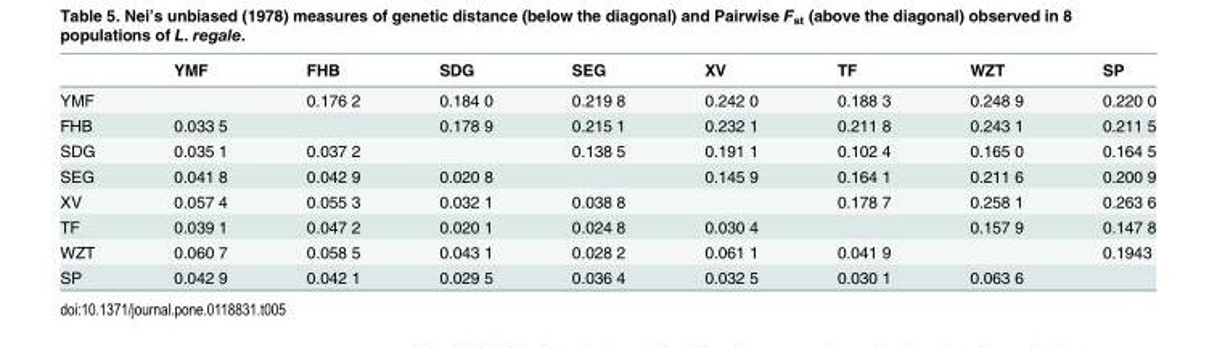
<table><thead><tr><td></td><td>YMF</td><td>FHB</td><td>SDG</td><td>SEG</td><td>XV</td><td>TF</td><td>WZT</td><td>SP</td></tr></thead><tbody><tr><td>YMF</td><td></td><td>0.176 2</td><td>0.184 0</td><td>0.219 8</td><td>0.242 0</td><td>0.188 3</td><td>0.248 9</td><td>0.220 0</td></tr><tr><td>FHB</td><td>0.033 5</td><td></td><td>0.178 9</td><td>0.215 1</td><td>0.232 1</td><td>0.211 8</td><td>0.243 1</td><td>0.211 5</td></tr><tr><td>SDG</td><td>0.035 1</td><td>0.037 2</td><td></td><td>0.138 5</td><td>0.191 1</td><td>0.102 4</td><td>0.165 0</td><td>0.164 5</td></tr><tr><td>SEG</td><td>0.041 8</td><td>0.042 9</td><td>0.020 8</td><td></td><td>0.145 9</td><td>0.164 1</td><td>0.211 6</td><td>0.200 9</td></tr><tr><td>XV</td><td>0.057 4</td><td>0.055 3</td><td>0.032 1</td><td>0.038 8</td><td></td><td>0.178 7</td><td>0.258 1</td><td>0.263 6</td></tr><tr><td>TF</td><td>0.039 1</td><td>0.047 2</td><td>0.020 1</td><td>0.024 8</td><td>0.030 4</td><td></td><td>0.157 9</td><td>0.147 8</td></tr><tr><td>WZT</td><td>0.060 7</td><td>0.058 5</td><td>0.043 1</td><td>0.028 2</td><td>0.061 1</td><td>0.041 9</td><td></td><td>0.1943</td></tr><tr><td>SP</td><td>0.042 9</td><td>0.042 1</td><td>0.029 5</td><td>0.036 4</td><td>0.032 5</td><td>0.030 1</td><td>0.063 6</td><td></td></tr></tbody></table>